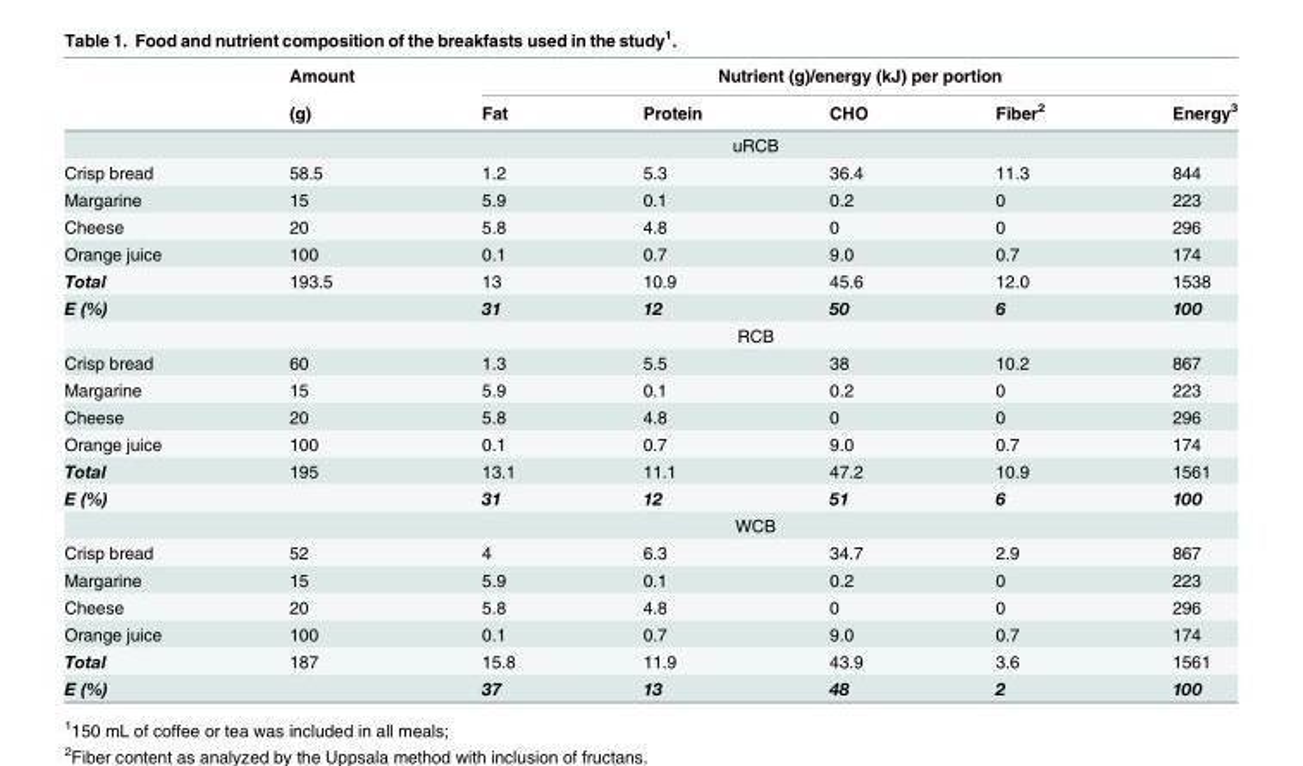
<table><thead><tr><td rowspan="2"></td><td rowspan="2">Amount (g)</td><td colspan="5">Nutrient (g)/energy (kJ) per portion</td></tr><tr><td>Fat</td><td>Protein</td><td>CHO</td><td>Fiber<sup>2</sup></td><td>Energy<sup>3</sup></td></tr></thead><tbody><tr><td></td><td></td><td></td><td colspan="2">uRCB</td><td></td><td></td></tr><tr><td>Crisp bread</td><td>58.5</td><td>1.2</td><td>5.3</td><td>36.4</td><td>11.3</td><td>844</td></tr><tr><td>Margarine</td><td>15</td><td>5.9</td><td>0.1</td><td>0.2</td><td>0</td><td>223</td></tr><tr><td>Cheese</td><td>20</td><td>5.8</td><td>4.8</td><td>0</td><td>0</td><td>296</td></tr><tr><td>Orange juice</td><td>100</td><td>0.1</td><td>0.7</td><td>9.0</td><td>0.7</td><td>174</td></tr><tr><td>Total</td><td>193.5</td><td>13</td><td>10.9</td><td>45.6</td><td>12.0</td><td>1538</td></tr><tr><td rowspan="2">E (%)</td><td></td><td>31</td><td>12</td><td>50</td><td>6</td><td>100</td></tr><tr><td></td><td></td><td colspan="2">RCB</td><td></td><td></td></tr><tr><td>Crisp bread</td><td>60</td><td>1.3</td><td>5.5</td><td>38</td><td>10.2</td><td>867</td></tr><tr><td>Margarine</td><td>15</td><td>5.9</td><td>0.1</td><td>0.2</td><td>0</td><td>223</td></tr><tr><td>Cheese</td><td>20</td><td>5.8</td><td>4.8</td><td>0</td><td>0</td><td>296</td></tr><tr><td>Orange juice</td><td>100</td><td>0.1</td><td>0.7</td><td>9.0</td><td>0.7</td><td>174</td></tr><tr><td>Total</td><td>195</td><td>13.1</td><td>11.1</td><td>47.2</td><td>10.9</td><td>1561</td></tr><tr><td rowspan="2">E (%)</td><td></td><td>31</td><td>12</td><td>51</td><td>6</td><td>100</td></tr><tr><td></td><td></td><td colspan="2">WCB</td><td></td><td></td></tr><tr><td>Crisp bread</td><td>52</td><td>4</td><td>6.3</td><td>34.7</td><td>2.9</td><td>867</td></tr><tr><td>Margarine</td><td>15</td><td>5.9</td><td>0.1</td><td>0.2</td><td>0</td><td>223</td></tr><tr><td>Cheese</td><td>20</td><td>5.8</td><td>4.8</td><td>0</td><td>0</td><td>296</td></tr><tr><td>Orange juice</td><td>100</td><td>0.1</td><td>0.7</td><td>9.0</td><td>0.7</td><td>174</td></tr><tr><td>Total</td><td>187</td><td>15.8</td><td>11.9</td><td>43.9</td><td>3.6</td><td>1561</td></tr><tr><td>E (%)</td><td></td><td>37</td><td>13</td><td>48</td><td>2</td><td>100</td></tr></tbody></table>